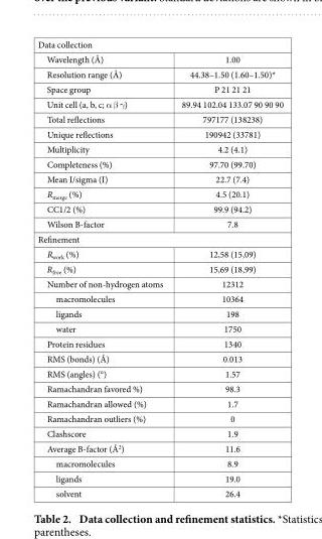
<table><tbody><tr><td colspan="2">Data collection</td></tr><tr><td>Wavelength (Å)</td><td>1.00</td></tr><tr><td>Resolution range (Å)</td><td>44.38–1.50 (1.60–1.50)*</td></tr><tr><td>Space group</td><td>P 21 21 21</td></tr><tr><td>Unit cell (a, b, c; α β γ )</td><td>89.94 102.04 133.07 90 90 90</td></tr><tr><td>Total reflections</td><td>797177 (138238)</td></tr><tr><td>Unique reflections</td><td>190942 (33781)</td></tr><tr><td>Multiplicity</td><td>4.2 (4.1)</td></tr><tr><td>Completeness (%)</td><td>97.70 (99.70)</td></tr><tr><td>Mean I/sigma (I)</td><td>22.7 (7.4)</td></tr><tr><td>R<sub>merge</sub> (%)</td><td>4.5 (20.1)</td></tr><tr><td>CC1/2 (%)</td><td>99.9 (94.2)</td></tr><tr><td>Wilson B-factor</td><td>7.8</td></tr><tr><td colspan="2">Refinement</td></tr><tr><td>R<sub>work</sub> (%)</td><td>12,58 (15,09)</td></tr><tr><td>R<sub>free</sub> (%)</td><td>15,69 (18,99)</td></tr><tr><td>Number of non-hydrogen atoms</td><td>12312</td></tr><tr><td>macromolecules</td><td>10364</td></tr><tr><td>ligands</td><td>198</td></tr><tr><td>water</td><td>1750</td></tr><tr><td>Protein residues</td><td>1340</td></tr><tr><td>RMS (bonds) (Å)</td><td>0.013</td></tr><tr><td>RMS (angles) (°)</td><td>1.57</td></tr><tr><td>Ramachandran favored %)</td><td>98.3</td></tr><tr><td>Ramachandran allowed (%)</td><td>1.7</td></tr><tr><td>Ramachandran outliers (%)</td><td>0</td></tr><tr><td>Clashscore</td><td>1.9</td></tr><tr><td>Average B-factor (Å<sup>2</sup>)</td><td>11.6</td></tr><tr><td>macromolecules</td><td>8.9</td></tr><tr><td>ligands</td><td>19.0</td></tr><tr><td>solvent</td><td>26.4</td></tr></tbody></table>